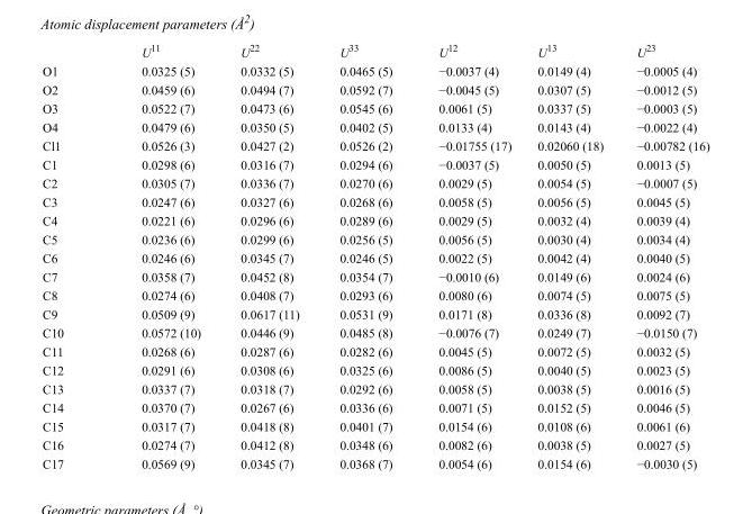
<table><thead><tr><td></td><td>U<sup>11</sup></td><td>U<sup>22</sup></td><td>U<sup>33</sup></td><td>U<sup>12</sup></td><td>U<sup>13</sup></td><td>U<sup>23</sup></td></tr></thead><tbody><tr><td>O1</td><td>0.0325 (5)</td><td>0.0332 (5)</td><td>0.0465 (5)</td><td>−0.0037 (4)</td><td>0.0149 (4)</td><td>−0.0005 (4)</td></tr><tr><td>O2</td><td>0.0459 (6)</td><td>0.0494 (7)</td><td>0.0592 (7)</td><td>−0.0045 (5)</td><td>0.0307 (5)</td><td>−0.0012 (5)</td></tr><tr><td>O3</td><td>0.0522 (7)</td><td>0.0473 (6)</td><td>0.0545 (6)</td><td>0.0061 (5)</td><td>0.0337 (5)</td><td>−0.0003 (5)</td></tr><tr><td>O4</td><td>0.0479 (6)</td><td>0.0350 (5)</td><td>0.0402 (5)</td><td>0.0133 (4)</td><td>0.0143 (4)</td><td>−0.0022 (4)</td></tr><tr><td>Cl1</td><td>0.0526 (3)</td><td>0.0427 (2)</td><td>0.0526 (2)</td><td>−0.01755 (17)</td><td>0.02060 (18)</td><td>−0.00782 (16)</td></tr><tr><td>C1</td><td>0.0298 (6)</td><td>0.0316 (7)</td><td>0.0294 (6)</td><td>−0.0037 (5)</td><td>0.0050 (5)</td><td>0.0013 (5)</td></tr><tr><td>C2</td><td>0.0305 (7)</td><td>0.0336 (7)</td><td>0.0270 (6)</td><td>0.0029 (5)</td><td>0.0054 (5)</td><td>−0.0007 (5)</td></tr><tr><td>C3</td><td>0.0247 (6)</td><td>0.0327 (6)</td><td>0.0268 (6)</td><td>0.0058 (5)</td><td>0.0056 (5)</td><td>0.0045 (5)</td></tr><tr><td>C4</td><td>0.0221 (6)</td><td>0.0296 (6)</td><td>0.0289 (6)</td><td>0.0029 (5)</td><td>0.0032 (4)</td><td>0.0039 (4)</td></tr><tr><td>C5</td><td>0.0236 (6)</td><td>0.0299 (6)</td><td>0.0256 (5)</td><td>0.0056 (5)</td><td>0.0030 (4)</td><td>0.0034 (4)</td></tr><tr><td>C6</td><td>0.0246 (6)</td><td>0.0345 (7)</td><td>0.0246 (5)</td><td>0.0022 (5)</td><td>0.0042 (4)</td><td>0.0040 (5)</td></tr><tr><td>C7</td><td>0.0358 (7)</td><td>0.0452 (8)</td><td>0.0354 (7)</td><td>−0.0010 (6)</td><td>0.0149 (6)</td><td>0.0024 (6)</td></tr><tr><td>C8</td><td>0.0274 (6)</td><td>0.0408 (7)</td><td>0.0293 (6)</td><td>0.0080 (6)</td><td>0.0074 (5)</td><td>0.0075 (5)</td></tr><tr><td>C9</td><td>0.0509 (9)</td><td>0.0617 (11)</td><td>0.0531 (9)</td><td>0.0171 (8)</td><td>0.0336 (8)</td><td>0.0092 (7)</td></tr><tr><td>C10</td><td>0.0572 (10)</td><td>0.0446 (9)</td><td>0.0485 (8)</td><td>−0.0076 (7)</td><td>0.0249 (7)</td><td>−0.0150 (7)</td></tr><tr><td>C11</td><td>0.0268 (6)</td><td>0.0287 (6)</td><td>0.0282 (6)</td><td>0.0045 (5)</td><td>0.0072 (5)</td><td>0.0032 (5)</td></tr><tr><td>C12</td><td>0.0291 (6)</td><td>0.0308 (6)</td><td>0.0325 (6)</td><td>0.0086 (5)</td><td>0.0040 (5)</td><td>0.0023 (5)</td></tr><tr><td>C13</td><td>0.0337 (7)</td><td>0.0318 (7)</td><td>0.0292 (6)</td><td>0.0058 (5)</td><td>0.0038 (5)</td><td>0.0016 (5)</td></tr><tr><td>C14</td><td>0.0370 (7)</td><td>0.0267 (6)</td><td>0.0336 (6)</td><td>0.0071 (5)</td><td>0.0152 (5)</td><td>0.0046 (5)</td></tr><tr><td>C15</td><td>0.0317 (7)</td><td>0.0418 (8)</td><td>0.0401 (7)</td><td>0.0154 (6)</td><td>0.0108 (6)</td><td>0.0061 (6)</td></tr><tr><td>C16</td><td>0.0274 (7)</td><td>0.0412 (8)</td><td>0.0348 (6)</td><td>0.0082 (6)</td><td>0.0038 (5)</td><td>0.0027 (5)</td></tr><tr><td>C17</td><td>0.0569 (9)</td><td>0.0345 (7)</td><td>0.0368 (7)</td><td>0.0054 (6)</td><td>0.0154 (6)</td><td>−0.0030 (5)</td></tr></tbody></table>